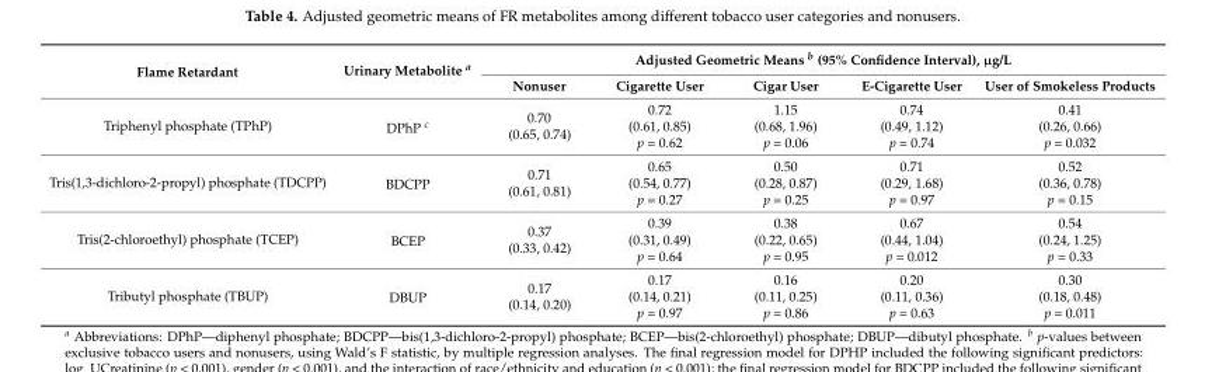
<table><thead><tr><td rowspan="2">Flame Retardant</td><td rowspan="2">Urinary Metabolite <sup>a</sup></td><td colspan="5">Adjusted Geometric Means <sup>b</sup> (95% Confidence Interval), µg/L</td></tr><tr><td>Nonuser</td><td>Cigarette User</td><td>Cigar User</td><td>E-Cigarette User</td><td>User of Smokeless Products</td></tr></thead><tbody><tr><td rowspan="3">Triphenyl phosphate (TPhP)</td><td rowspan="3">DPhP <sup>c</sup></td><td rowspan="3">0.70 (0.65, 0.74)</td><td>0.72</td><td>1.15</td><td>0.74</td><td>0.41</td></tr><tr><td>(0.61, 0.85)</td><td>(0.68, 1.96)</td><td>(0.49, 1.12)</td><td>(0.26, 0.66)</td></tr><tr><td>p = 0.62</td><td>p = 0.06</td><td>p = 0.74</td><td>p = 0.032</td></tr><tr><td rowspan="3">Tris(1,3-dichloro-2-propyl) phosphate (TDCPP)</td><td rowspan="3">BDCPP</td><td rowspan="3">0.71 (0.61, 0.81)</td><td>0.65</td><td>0.50</td><td>0.71</td><td>0.52</td></tr><tr><td>(0.54, 0.77)</td><td>(0.28, 0.87)</td><td>(0.29, 1.68)</td><td>(0.36, 0.78)</td></tr><tr><td>p = 0.27</td><td>p = 0.25</td><td>p = 0.97</td><td>p = 0.15</td></tr><tr><td rowspan="3">Tris(2-chloroethyl) phosphate (TCEP)</td><td rowspan="3">BCEP</td><td rowspan="3">0.37 (0.33, 0.42)</td><td>0.39</td><td>0.38</td><td>0.67</td><td>0.54</td></tr><tr><td>(0.31, 0.49)</td><td>(0.22, 0.65)</td><td>(0.44, 1.04)</td><td>(0.24, 1.25)</td></tr><tr><td>p = 0.64</td><td>p = 0.95</td><td>p = 0.012</td><td>p = 0.33</td></tr><tr><td rowspan="3">Tributyl phosphate (TBUP)</td><td rowspan="3">DBUP</td><td rowspan="3">0.17 (0.14, 0.20)</td><td>0.17</td><td>0.16</td><td>0.20</td><td>0.30</td></tr><tr><td>(0.14, 0.21)</td><td>(0.11, 0.25)</td><td>(0.11, 0.36)</td><td>(0.18, 0.48)</td></tr><tr><td>p = 0.97</td><td>p = 0.86</td><td>p = 0.63</td><td>p = 0.011</td></tr></tbody></table>